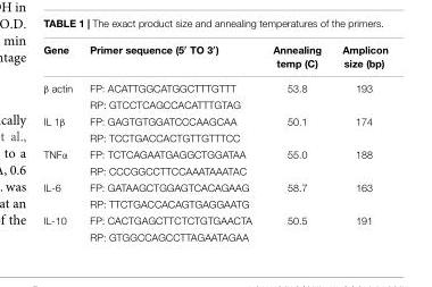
<table><thead><tr><td>Gene</td><td>Primer sequence (5′ TO 3′)</td><td>Annealing temp (C)</td><td>Amplicon size (bp)</td></tr></thead><tbody><tr><td rowspan="2">β actin</td><td>FP: ACATTGGCATGGCTTTGTTT</td><td>53.8</td><td>193</td></tr><tr><td>RP: GTCCTCAGCCACATTTGTAG</td><td></td><td></td></tr><tr><td rowspan="2">IL 1β</td><td>FP: GAGTGTGGATCCCAAGCAA</td><td>50.1</td><td>174</td></tr><tr><td>RP: TCCTGACCACTGTTGTTTCC</td><td></td><td></td></tr><tr><td rowspan="2">TNFα</td><td>FP: TCTCAGAATGAGGCTGGATAA</td><td>55.0</td><td>188</td></tr><tr><td>RP: CCCGGCCTTCCAAATAAATAC</td><td></td><td></td></tr><tr><td rowspan="2">IL-6</td><td>FP: GATAAGCTGGAGTCACAGAAG</td><td>58.7</td><td>163</td></tr><tr><td>RP: TTCTGACCACAGTGAGGAATG</td><td></td><td></td></tr><tr><td rowspan="2">IL-10</td><td>FP: CACTGAGCTTCTCTGTGAACTA</td><td>50.5</td><td>191</td></tr><tr><td>RP: GTGGCCAGCCTTAGAATAGAA</td><td></td><td></td></tr></tbody></table>